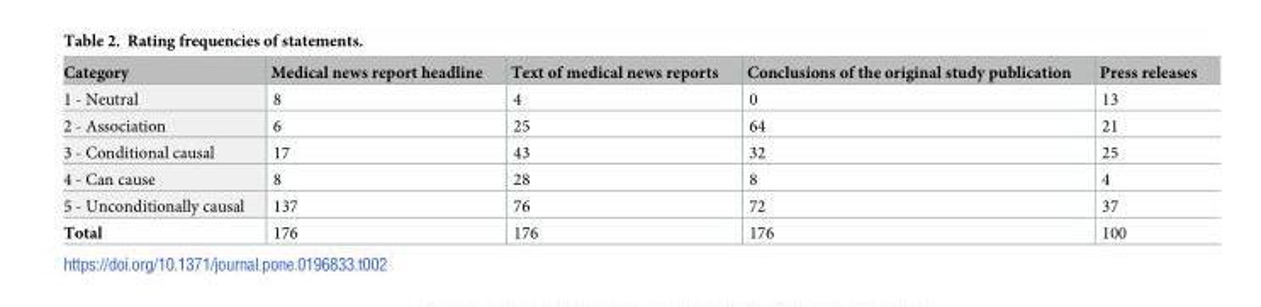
<table><thead><tr><td>Category</td><td>Medical news report headline</td><td>Text of medical news reports</td><td>Conclusions of the original study publication</td><td>Press releases</td></tr></thead><tbody><tr><td>1 - Neutral</td><td>8</td><td>4</td><td>0</td><td>13</td></tr><tr><td>2 - Association</td><td>6</td><td>25</td><td>64</td><td>21</td></tr><tr><td>3 - Conditional causal</td><td>17</td><td>43</td><td>32</td><td>25</td></tr><tr><td>4 - Can cause</td><td>8</td><td>28</td><td>8</td><td>4</td></tr><tr><td>5 - Unconditionally causal</td><td>137</td><td>76</td><td>72</td><td>37</td></tr><tr><td>Total</td><td>176</td><td>176</td><td>176</td><td>100</td></tr></tbody></table>